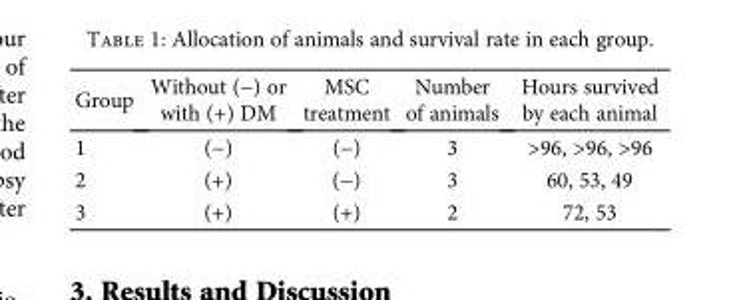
<table><thead><tr><td>Group</td><td>Without (−) or with (+) DM</td><td>MSC treatment</td><td>Number of animals</td><td>Hours survived by each animal</td></tr></thead><tbody><tr><td>1</td><td>(−)</td><td>(−)</td><td>3</td><td>&gt;96, &gt;96, &gt;96</td></tr><tr><td>2</td><td>(+)</td><td>(−)</td><td>3</td><td>60, 53, 49</td></tr><tr><td>3</td><td>(+)</td><td>(+)</td><td>2</td><td>72, 53</td></tr></tbody></table>